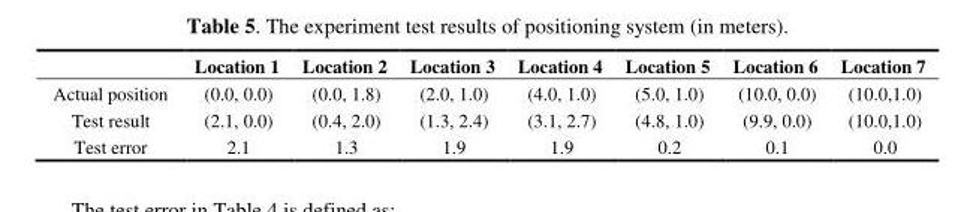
<table><thead><tr><td></td><td>Location 1</td><td>Location 2</td><td>Location 3</td><td>Location 4</td><td>Location 5</td><td>Location 6</td><td>Location 7</td></tr></thead><tbody><tr><td>Actual position</td><td>(0.0, 0.0)</td><td>(0.0, 1.8)</td><td>(2.0, 1.0)</td><td>(4.0, 1.0)</td><td>(5.0, 1.0)</td><td>(10.0, 0.0)</td><td>(10.0,1.0)</td></tr><tr><td>Test result</td><td>(2.1, 0.0)</td><td>(0.4, 2.0)</td><td>(1.3, 2.4)</td><td>(3.1, 2.7)</td><td>(4.8, 1.0)</td><td>(9.9, 0.0)</td><td>(10.0,1.0)</td></tr><tr><td>Test error</td><td>2.1</td><td>1.3</td><td>1.9</td><td>1.9</td><td>0.2</td><td>0.1</td><td>0.0</td></tr></tbody></table>